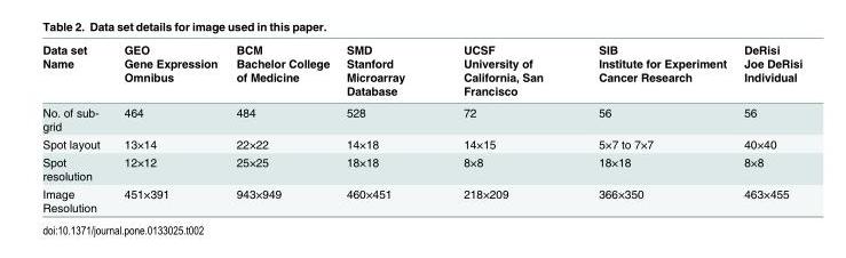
<table><thead><tr><td rowspan="2">Data set Name</td><td rowspan="2">GEO Gene Expression Omnibus</td><td rowspan="2">BCM Bachelor College of Medicine</td><td rowspan="2">SMD Stanford Microarray Database</td><td rowspan="2">UCSF University of California, San Francisco</td><td rowspan="2">SIB Institute for Experiment Cancer Research</td><td rowspan="2">DeRisi Joe DeRisi Individual</td></tr><tr></tr></thead><tbody><tr><td>No. of sub- grid</td><td>464</td><td>484</td><td>528</td><td>72</td><td>56</td><td>56</td></tr><tr><td>Spot layout</td><td>13×14</td><td>22×22</td><td>14×18</td><td>14×15</td><td>5×7 to 7×7</td><td>40×40</td></tr><tr><td>Spot resolution</td><td>12×12</td><td>25×25</td><td>18×18</td><td>8×8</td><td>18×18</td><td>8×8</td></tr><tr><td>Image Resolution</td><td>451×391</td><td>943×949</td><td>460×451</td><td>218×209</td><td>366×350</td><td>463×455</td></tr></tbody></table>